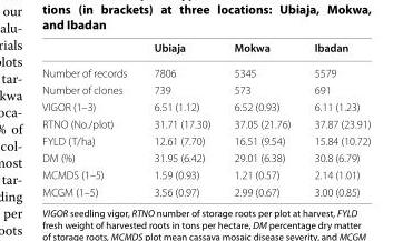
<table><thead><tr><td></td><td>Ubiaja</td><td>Mokwa</td><td>Ibadan</td></tr></thead><tbody><tr><td>Number of records</td><td>7806</td><td>5345</td><td>5579</td></tr><tr><td>Number of clones</td><td>739</td><td>573</td><td>691</td></tr><tr><td>VIGOR (1–3)</td><td>6.51 (1.12)</td><td>6.52 (0.93)</td><td>6.11 (1.23)</td></tr><tr><td>RTNO (No./plot)</td><td>31.71 (17.30)</td><td>37.05 (21.76)</td><td>37.87 (23.91)</td></tr><tr><td>FYLD (T/ha)</td><td>12.61 (7.70)</td><td>16.51 (9.54)</td><td>15.84 (10.72)</td></tr><tr><td>DM (%)</td><td>31.95 (6.42)</td><td>29.01 (6.38)</td><td>30.8 (6.79)</td></tr><tr><td>MCMDS (1–5)</td><td>1.59 (0.93)</td><td>1.21 (0.57)</td><td>2.14 (1.01)</td></tr><tr><td>MCGM (1–5)</td><td>3.56 (0.97)</td><td>2.99 (0.67)</td><td>3.00 (0.85)</td></tr></tbody></table>